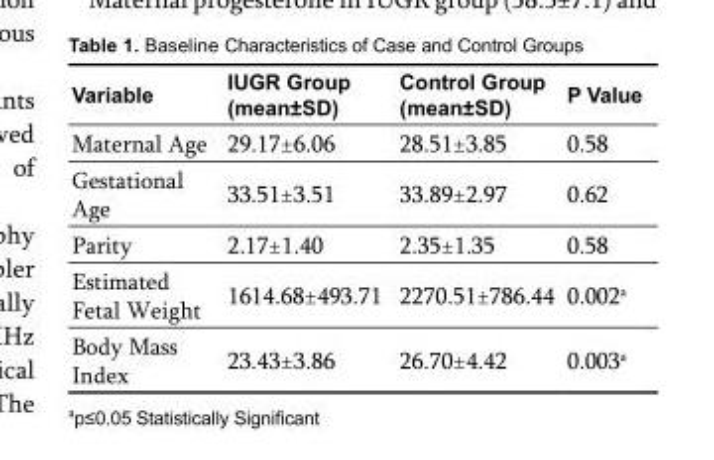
<table><thead><tr><td>Variable</td><td>IUGR Group (mean±SD)</td><td>Control Group (mean±SD)</td><td>P Value</td></tr></thead><tbody><tr><td>Maternal Age</td><td>29.17±6.06</td><td>28.51±3.85</td><td>0.58</td></tr><tr><td>Gestational Age</td><td>33.51±3.51</td><td>33.89±2.97</td><td>0.62</td></tr><tr><td>Parity</td><td>2.17±1.40</td><td>2.35±1.35</td><td>0.58</td></tr><tr><td>Estimated Fetal Weight</td><td>1614.68±493.71</td><td>2270.51±786.44</td><td>0.002<sup>a</sup></td></tr><tr><td>Body Mass Index</td><td>23.43±3.86</td><td>26.70±4.42</td><td>0.003<sup>a</sup></td></tr></tbody></table>